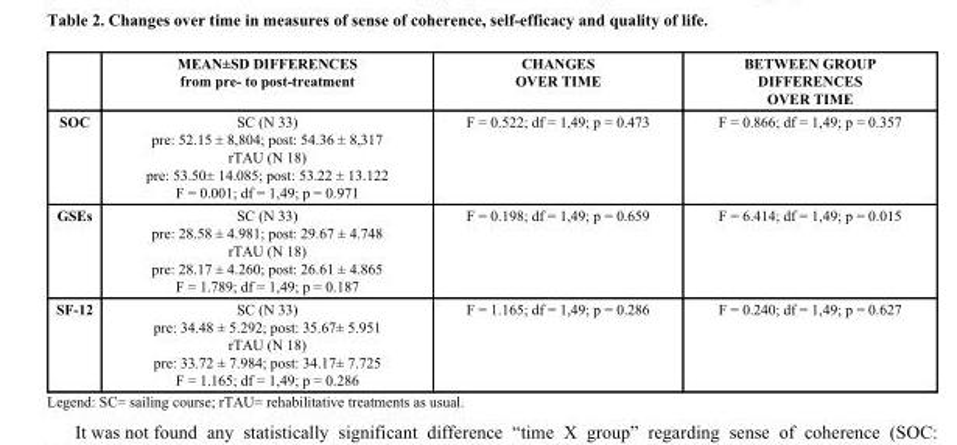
<table><thead><tr><td></td><td>MEAN±SD DIFFERENCES from pre- to post-treatment</td><td>CHANGES OVER TIME</td><td>BETWEEN GROUP DIFFERENCES OVER TIME</td></tr></thead><tbody><tr><td>SOC</td><td>SC (N 33) pre: 52.15 ± 8,804; post: 54.36 ± 8,317 rTAU (N 18) pre: 53.50± 14.085; post: 53.22 ± 13.122 F = 0.001; df = 1,49; p = 0.971</td><td>F = 0.522; df = 1,49; p = 0.473</td><td>F = 0.866; df = 1,49; p = 0.357</td></tr><tr><td>GSEs</td><td>SC (N 33) pre: 28.58 ± 4.981; post: 29.67 ± 4.748 rTAU (N 18) pre: 28.17 ± 4.260; post: 26.61 ± 4.865 F = 1.789; df = 1,49; p = 0.187</td><td>F = 0.198; df = 1,49; p = 0.659</td><td>F = 6.414; df = 1,49; p = 0.015</td></tr><tr><td>SF-12</td><td>SC (N 33) pre: 34.48 ± 5.292; post: 35.67± 5.951 rTAU (N 18) pre: 33.72 ± 7.984; post: 34.17± 7.725 F = 1.165; df = 1,49; p = 0.286</td><td>F = 1.165; df = 1,49; p = 0.286</td><td>F = 0.240; df = 1,49; p = 0.627</td></tr></tbody></table>